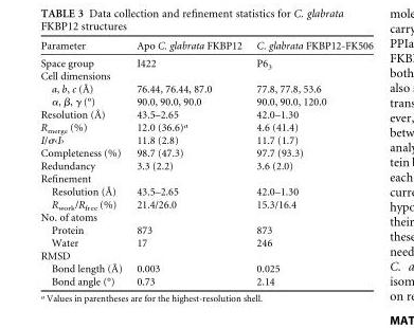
<table><thead><tr><td>Parameter</td><td>Apo C. glabrata FKBP12</td><td>C. glabrata FKBP12-FK506</td></tr></thead><tbody><tr><td>Space group</td><td>I422</td><td>P6<sub>3</sub></td></tr><tr><td colspan="3">Cell dimensions</td></tr><tr><td>a, b, c (Å)</td><td>76.44, 76.44, 87.0</td><td>77.8, 77.8, 53.6</td></tr><tr><td>α, β, γ (°)</td><td>90.0, 90.0, 90.0</td><td>90.0, 90.0, 120.0</td></tr><tr><td>Resolution (Å)</td><td>43.5–2.65</td><td>42.0–1.30</td></tr><tr><td>R<sub>merge</sub> (%)</td><td>12.0 (36.6)<sup>a</sup></td><td>4.6 (41.4)</td></tr><tr><td>I/σ‹I›</td><td>11.8 (2.8)</td><td>11.7 (1.7)</td></tr><tr><td>Completeness (%)</td><td>98.7 (47.3)</td><td>97.7 (93.3)</td></tr><tr><td>Redundancy</td><td>3.3 (2.2)</td><td>3.6 (2.0)</td></tr><tr><td colspan="3">Refinement</td></tr><tr><td>Resolution (Å)</td><td>43.5–2.65</td><td>42.0–1.30</td></tr><tr><td>R<sub>work</sub>/R<sub>free</sub> (%)</td><td>21.4/26.0</td><td>15.3/16.4</td></tr><tr><td colspan="3">No. of atoms</td></tr><tr><td>Protein</td><td>873</td><td>873</td></tr><tr><td>Water</td><td>17</td><td>246</td></tr><tr><td colspan="3">RMSD</td></tr><tr><td>Bond length (Å)</td><td>0.003</td><td>0.025</td></tr><tr><td>Bond angle (°)</td><td>0.73</td><td>2.14</td></tr></tbody></table>